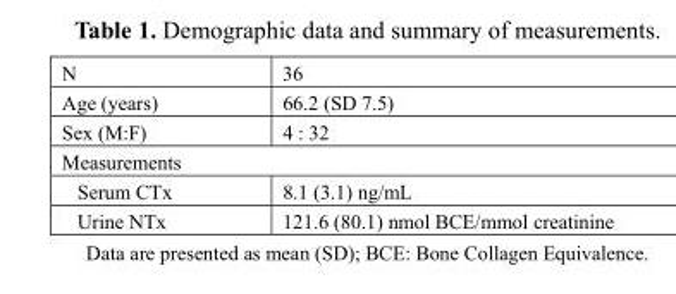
<table><tbody><tr><td>N</td><td>36</td></tr><tr><td>Age (years)</td><td>66.2 (SD 7.5)</td></tr><tr><td>Sex (M:F)</td><td>4 : 32</td></tr><tr><td colspan="2">Measurements</td></tr><tr><td>Serum CTx</td><td>8.1 (3.1) ng/mL</td></tr><tr><td>Urine NTx</td><td>121.6 (80.1) nmol BCE/mmol creatinine</td></tr></tbody></table>